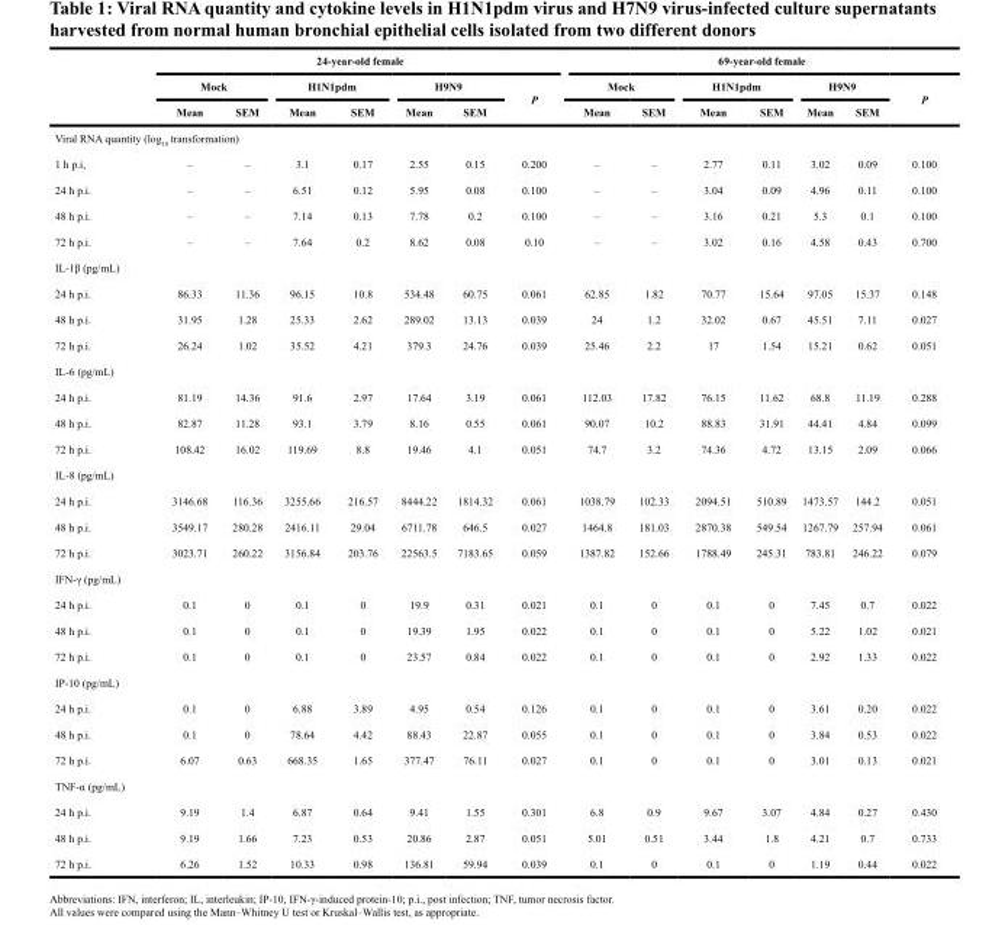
<table><thead><tr><td rowspan="3"></td><td colspan="7">24-year-old female</td><td colspan="7">69-year-old female</td></tr><tr><td colspan="2">Mock</td><td colspan="2">H1N1pdm</td><td colspan="2">H9N9</td><td rowspan="2">P</td><td colspan="2">Mock</td><td colspan="2">H1N1pdm</td><td colspan="2">H9N9</td><td rowspan="2">P</td></tr><tr><td>Mean</td><td>SEM</td><td>Mean</td><td>SEM</td><td>Mean</td><td>SEM</td><td>Mean</td><td>SEM</td><td>Mean</td><td>SEM</td><td>Mean</td><td>SEM</td></tr></thead><tbody><tr><td colspan="15">Viral RNA quantity (log<sub>10</sub> transformation)</td></tr><tr><td>1 h p.i,</td><td>–</td><td>–</td><td>3.1</td><td>0.17</td><td>2.55</td><td>0.15</td><td>0.200</td><td>–</td><td>–</td><td>2.77</td><td>0.11</td><td>3.02</td><td>0.09</td><td>0.100</td></tr><tr><td>24 h p.i.</td><td>–</td><td>–</td><td>6.51</td><td>0.12</td><td>5.95</td><td>0.08</td><td>0.100</td><td>–</td><td>–</td><td>3.04</td><td>0.09</td><td>4.96</td><td>0.11</td><td>0.100</td></tr><tr><td>48 h p.i.</td><td>–</td><td>–</td><td>7.14</td><td>0.13</td><td>7.78</td><td>0.2</td><td>0.100</td><td>–</td><td>–</td><td>3.16</td><td>0.21</td><td>5.3</td><td>0.1</td><td>0.100</td></tr><tr><td>72 h p.i.</td><td>–</td><td>–</td><td>7.64</td><td>0.2</td><td>8.62</td><td>0.08</td><td>0.10</td><td>–</td><td>–</td><td>3.02</td><td>0.16</td><td>4.58</td><td>0.43</td><td>0.700</td></tr><tr><td colspan="15">IL-1β (pg/mL)</td></tr><tr><td>24 h p.i.</td><td>86.33</td><td>11.36</td><td>96.15</td><td>10.8</td><td>534.48</td><td>60.75</td><td>0.061</td><td>62.85</td><td>1.82</td><td>70.77</td><td>15.64</td><td>97.05</td><td>15.37</td><td>0.148</td></tr><tr><td>48 h p.i.</td><td>31.95</td><td>1.28</td><td>25.33</td><td>2.62</td><td>289.02</td><td>13.13</td><td>0.039</td><td>24</td><td>1.2</td><td>32.02</td><td>0.67</td><td>45.51</td><td>7.11</td><td>0.027</td></tr><tr><td>72 h p.i.</td><td>26.24</td><td>1.02</td><td>35.52</td><td>4.21</td><td>379.3</td><td>24.76</td><td>0.039</td><td>25.46</td><td>2.2</td><td>17</td><td>1.54</td><td>15.21</td><td>0.62</td><td>0.051</td></tr><tr><td colspan="15">IL-6 (pg/mL)</td></tr><tr><td>24 h p.i.</td><td>81.19</td><td>14.36</td><td>91.6</td><td>2.97</td><td>17.64</td><td>3.19</td><td>0.061</td><td>112.03</td><td>17.82</td><td>76.15</td><td>11.62</td><td>68.8</td><td>11.19</td><td>0.288</td></tr><tr><td>48 h p.i.</td><td>82.87</td><td>11.28</td><td>93.1</td><td>3.79</td><td>8.16</td><td>0.55</td><td>0.061</td><td>90.07</td><td>10.2</td><td>88.83</td><td>31.91</td><td>44.41</td><td>4.84</td><td>0.099</td></tr><tr><td>72 h p.i.</td><td>108.42</td><td>16.02</td><td>119.69</td><td>8.8</td><td>19.46</td><td>4.1</td><td>0.051</td><td>74.7</td><td>3.2</td><td>74.36</td><td>4.72</td><td>13.15</td><td>2.09</td><td>0.066</td></tr><tr><td colspan="15">IL-8 (pg/mL)</td></tr><tr><td>24 h p.i.</td><td>3146.68</td><td>116.36</td><td>3255.66</td><td>216.57</td><td>8444.22</td><td>1814.32</td><td>0.061</td><td>1038.79</td><td>102.33</td><td>2094.51</td><td>510.89</td><td>1473.57</td><td>144.2</td><td>0.051</td></tr><tr><td>48 h p.i.</td><td>3549.17</td><td>280.28</td><td>2416.11</td><td>29.04</td><td>6711.78</td><td>646.5</td><td>0.027</td><td>1464.8</td><td>181.03</td><td>2870.38</td><td>549.54</td><td>1267.79</td><td>257.94</td><td>0.061</td></tr><tr><td>72 h p.i.</td><td>3023.71</td><td>260.22</td><td>3156.84</td><td>203.76</td><td>22563.5</td><td>7183.65</td><td>0.059</td><td>1387.82</td><td>152.66</td><td>1788.49</td><td>245.31</td><td>783.81</td><td>246.22</td><td>0.079</td></tr><tr><td colspan="15">IFN-γ (pg/mL)</td></tr><tr><td>24 h p.i.</td><td>0.1</td><td>0</td><td>0.1</td><td>0</td><td>19.9</td><td>0.31</td><td>0.021</td><td>0.1</td><td>0</td><td>0.1</td><td>0</td><td>7.45</td><td>0.7</td><td>0.022</td></tr><tr><td>48 h p.i.</td><td>0.1</td><td>0</td><td>0.1</td><td>0</td><td>19.39</td><td>1.95</td><td>0.022</td><td>0.1</td><td>0</td><td>0.1</td><td>0</td><td>5.22</td><td>1.02</td><td>0.021</td></tr><tr><td>72 h p.i.</td><td>0.1</td><td>0</td><td>0.1</td><td>0</td><td>23.57</td><td>0.84</td><td>0.022</td><td>0.1</td><td>0</td><td>0.1</td><td>0</td><td>2.92</td><td>1.33</td><td>0.022</td></tr><tr><td colspan="15">IP-10 (pg/mL)</td></tr><tr><td>24 h p.i.</td><td>0.1</td><td>0</td><td>6.88</td><td>3.89</td><td>4.95</td><td>0.54</td><td>0.126</td><td>0.1</td><td>0</td><td>0.1</td><td>0</td><td>3.61</td><td>0.20</td><td>0.022</td></tr><tr><td>48 h p.i.</td><td>0.1</td><td>0</td><td>78.64</td><td>4.42</td><td>88.43</td><td>22.87</td><td>0.055</td><td>0.1</td><td>0</td><td>0.1</td><td>0</td><td>3.84</td><td>0.53</td><td>0.022</td></tr><tr><td>72 h p.i.</td><td>6.07</td><td>0.63</td><td>668.35</td><td>1.65</td><td>377.47</td><td>76.11</td><td>0.027</td><td>0.1</td><td>0</td><td>0.1</td><td>0</td><td>3.01</td><td>0.13</td><td>0.021</td></tr><tr><td colspan="15">TNF-α (pg/mL)</td></tr><tr><td>24 h p.i.</td><td>9.19</td><td>1.4</td><td>6.87</td><td>0.64</td><td>9.41</td><td>1.55</td><td>0.301</td><td>6.8</td><td>0.9</td><td>9.67</td><td>3.07</td><td>4.84</td><td>0.27</td><td>0.430</td></tr><tr><td>48 h p.i.</td><td>9.19</td><td>1.66</td><td>7.23</td><td>0.53</td><td>20.86</td><td>2.87</td><td>0.051</td><td>5.01</td><td>0.51</td><td>3.44</td><td>1.8</td><td>4.21</td><td>0.7</td><td>0.733</td></tr><tr><td>72 h p.i.</td><td>6.26</td><td>1.52</td><td>10.33</td><td>0.98</td><td>136.81</td><td>59.94</td><td>0.039</td><td>0.1</td><td>0</td><td>0.1</td><td>0</td><td>1.19</td><td>0.44</td><td>0.022</td></tr></tbody></table>